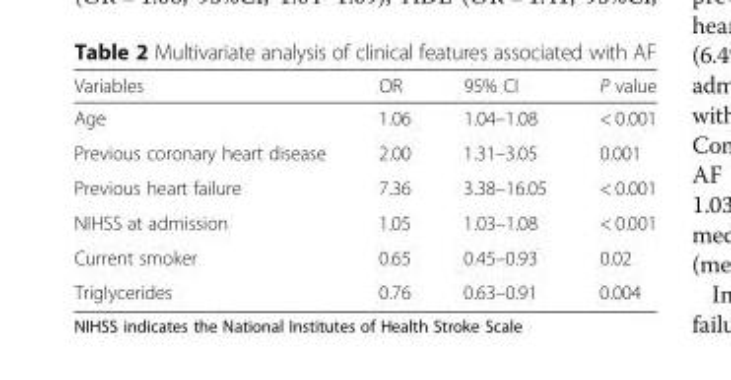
<table><thead><tr><td>Variables</td><td>OR</td><td>95% CI</td><td>P value</td></tr></thead><tbody><tr><td>Age</td><td>1.06</td><td>1.04–1.08</td><td>&lt; 0.001</td></tr><tr><td>Previous coronary heart disease</td><td>2.00</td><td>1.31–3.05</td><td>0.001</td></tr><tr><td>Previous heart failure</td><td>7.36</td><td>3.38–16.05</td><td>&lt; 0.001</td></tr><tr><td>NIHSS at admission</td><td>1.05</td><td>1.03–1.08</td><td>&lt; 0.001</td></tr><tr><td>Current smoker</td><td>0.65</td><td>0.45–0.93</td><td>0.02</td></tr><tr><td>Triglycerides</td><td>0.76</td><td>0.63–0.91</td><td>0.004</td></tr></tbody></table>